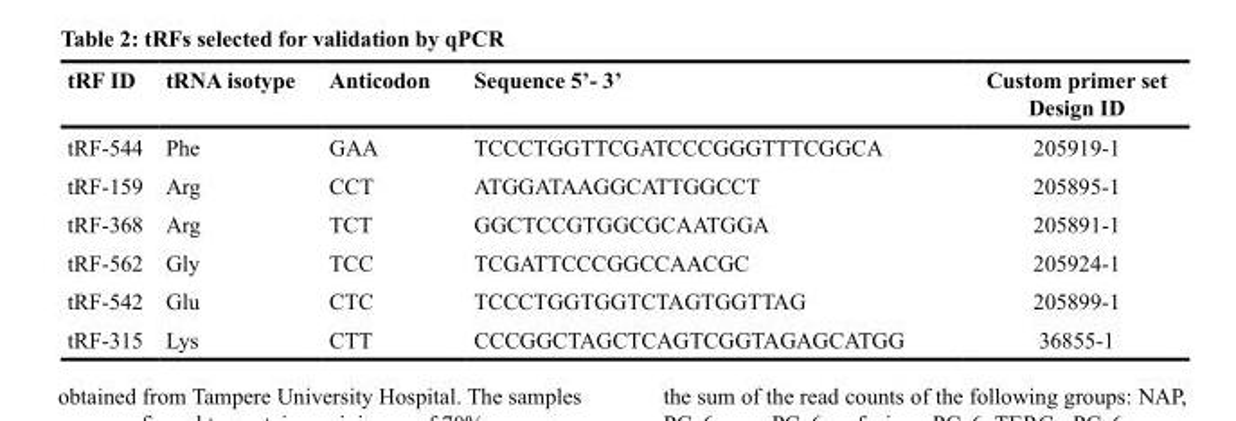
<table><thead><tr><td>tRF ID</td><td>tRNA isotype</td><td>Anticodon</td><td>Sequence 5’- 3’</td><td>Custom primer set Design ID</td></tr></thead><tbody><tr><td>tRF-544</td><td>Phe</td><td>GAA</td><td>TCCCTGGTTCGATCCCGGGTTTCGGCA</td><td>205919-1</td></tr><tr><td>tRF-159</td><td>Arg</td><td>CCT</td><td>ATGGATAAGGCATTGGCCT</td><td>205895-1</td></tr><tr><td>tRF-368</td><td>Arg</td><td>TCT</td><td>GGCTCCGTGGCGCAATGGA</td><td>205891-1</td></tr><tr><td>tRF-562</td><td>Gly</td><td>TCC</td><td>TCGATTCCCGGCCAACGC</td><td>205924-1</td></tr><tr><td>tRF-542</td><td>Glu</td><td>CTC</td><td>TCCCTGGTGGTCTAGTGGTTAG</td><td>205899-1</td></tr><tr><td>tRF-315</td><td>Lys</td><td>CTT</td><td>CCCGGCTAGCTCAGTCGGTAGAGCATGG</td><td>36855-1</td></tr></tbody></table>